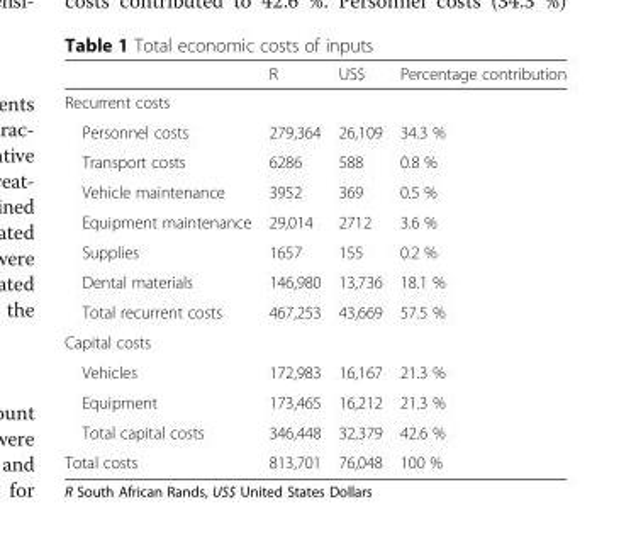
<table><thead><tr><td></td><td>R</td><td>US$</td><td>Percentage contribution</td></tr></thead><tbody><tr><td colspan="4">Recurrent costs</td></tr><tr><td>Personnel costs</td><td>279,364</td><td>26,109</td><td>34.3 %</td></tr><tr><td>Transport costs</td><td>6286</td><td>588</td><td>0.8 %</td></tr><tr><td>Vehicle maintenance</td><td>3952</td><td>369</td><td>0.5 %</td></tr><tr><td>Equipment maintenance</td><td>29,014</td><td>2712</td><td>3.6 %</td></tr><tr><td>Supplies</td><td>1657</td><td>155</td><td>0.2 %</td></tr><tr><td>Dental materials</td><td>146,980</td><td>13,736</td><td>18.1 %</td></tr><tr><td>Total recurrent costs</td><td>467,253</td><td>43,669</td><td>57.5 %</td></tr><tr><td colspan="4">Capital costs</td></tr><tr><td>Vehicles</td><td>172,983</td><td>16,167</td><td>21.3 %</td></tr><tr><td>Equipment</td><td>173,465</td><td>16,212</td><td>21.3 %</td></tr><tr><td>Total capital costs</td><td>346,448</td><td>32,379</td><td>42.6 %</td></tr><tr><td>Total costs</td><td>813,701</td><td>76,048</td><td>100 %</td></tr></tbody></table>